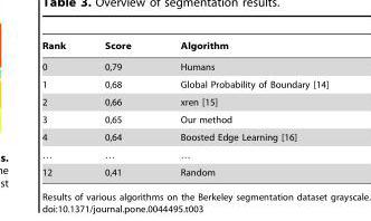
<table><thead><tr><td>Rank</td><td>Score</td><td>Algorithm</td></tr></thead><tbody><tr><td>0</td><td>0,79</td><td>Humans</td></tr><tr><td>1</td><td>0,68</td><td>Global Probability of Boundary [14]</td></tr><tr><td>2</td><td>0,66</td><td>xren [15]</td></tr><tr><td>3</td><td>0,65</td><td>Our method</td></tr><tr><td>4</td><td>0,64</td><td>Boosted Edge Learning [16]</td></tr><tr><td>…</td><td>…</td><td>…</td></tr><tr><td>12</td><td>0,41</td><td>Random</td></tr></tbody></table>